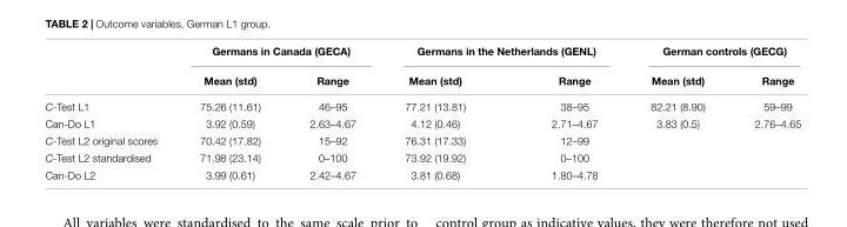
<table><thead><tr><td rowspan="2"></td><td colspan="2">Germans in Canada (GECA)</td><td colspan="2">Germans in the Netherlands (GENL)</td><td colspan="2">German controls (GECG)</td></tr><tr><td>Mean (std)</td><td>Range</td><td>Mean (std)</td><td>Range</td><td>Mean (std)</td><td>Range</td></tr></thead><tbody><tr><td>C-Test L1</td><td>75.26 (11.61)</td><td>46–95</td><td>77.21 (13.81)</td><td>38–95</td><td>82.21 (8.90)</td><td>59–99</td></tr><tr><td>Can-Do L1</td><td>3.92 (0.59)</td><td>2.63–4.67</td><td>4.12 (0.46)</td><td>2.71–4.67</td><td>3.83 (0.5)</td><td>2.76–4.65</td></tr><tr><td>C-Test L2 original scores</td><td>70.42 (17.82)</td><td>15–92</td><td>76.31 (17.33)</td><td>12–99</td><td></td><td></td></tr><tr><td>C-Test L2 standardised</td><td>71.98 (23.14)</td><td>0–100</td><td>73.92 (19.92)</td><td>0–100</td><td></td><td></td></tr><tr><td>Can-Do L2</td><td>3.99 (0.61)</td><td>2.42–4.67</td><td>3.81 (0.68)</td><td>1.80–4.78</td><td></td><td></td></tr></tbody></table>